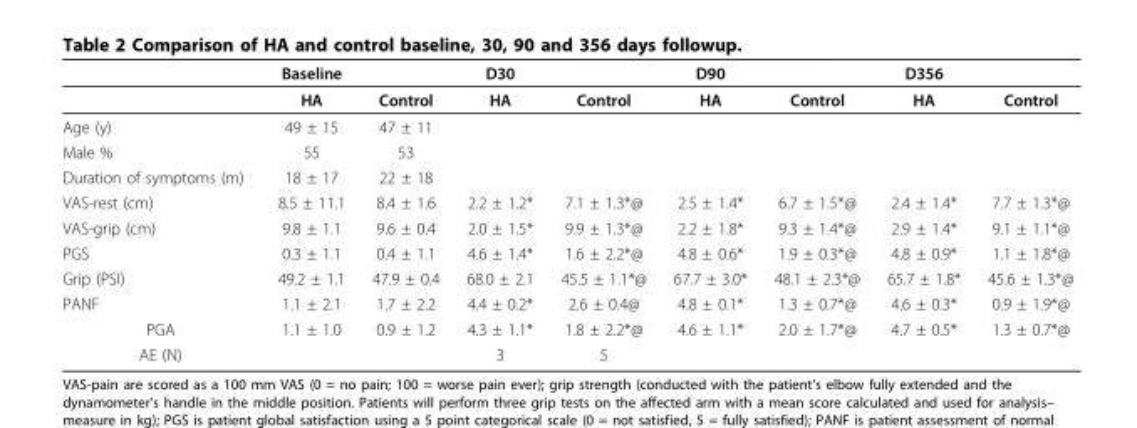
<table><thead><tr><td rowspan="2"></td><td rowspan="2">Baseline HA</td><td rowspan="2">Control</td><td rowspan="2">D30 HA</td><td rowspan="2">Control</td><td rowspan="2">D90 HA</td><td rowspan="2">Control</td><td rowspan="2">D356 HA</td><td rowspan="2">Control</td></tr><tr></tr></thead><tbody><tr><td>Age (y)</td><td>49 ± 15</td><td>47 ± 11</td><td></td><td></td><td></td><td></td><td></td><td></td></tr><tr><td>Male %</td><td>55</td><td>53</td><td></td><td></td><td></td><td></td><td></td><td></td></tr><tr><td>Duration of symptoms (m)</td><td>18 ± 17</td><td>22 ± 18</td><td></td><td></td><td></td><td></td><td></td><td></td></tr><tr><td>VAS-rest (cm)</td><td>8.5 ± 11.1</td><td>8.4 ± 1.6</td><td>2.2 ± 1.2*</td><td>7.1 ± 1.3*@</td><td>2.5 ± 1.4*</td><td>6.7 ± 1.5*@</td><td>2.4 ± 1.4*</td><td>7.7 ± 1.3*@</td></tr><tr><td>VAS-grip (cm)</td><td>9.8 ± 1.1</td><td>9.6 ± 0.4</td><td>2.0 ± 1.5*</td><td>9.9 ± 1.3*@</td><td>2.2 ± 1.8*</td><td>9.3 ± 1.4*@</td><td>2.9 ± 1.4*</td><td>9.1 ± 1.1*@</td></tr><tr><td>PGS</td><td>0.3 ± 1.1</td><td>0.4 ± 1.1</td><td>4.6 ± 1.4*</td><td>1.6 ± 2.2*@</td><td>4.8 ± 0.6*</td><td>1.9 ± 0.3*@</td><td>4.8 ± 0.9*</td><td>1.1 ± 1.8*@</td></tr><tr><td>Grip (PSI)</td><td>49.2 ± 1.1</td><td>47.9 ± 0.4</td><td>68.0 ± 2.1</td><td>45.5 ± 1.1*@</td><td>67.7 ± 3.0*</td><td>48.1 ± 2.3*@</td><td>65.7 ± 1.8*</td><td>45.6 ± 1.3*@</td></tr><tr><td>PANF</td><td>1.1 ± 2.1</td><td>1.7 ± 2.2</td><td>4.4 ± 0.2*</td><td>2.6 ± 0.4@</td><td>4.8 ± 0.1*</td><td>1.3 ± 0.7*@</td><td>4.6 ± 0.3*</td><td>0.9 ± 1.9*@</td></tr><tr><td>PGA</td><td>1.1 ± 1.0</td><td>0.9 ± 1.2</td><td>4.3 ± 1.1*</td><td>1.8 ± 2.2*@</td><td>4.6 ± 1.1*</td><td>2.0 ± 1.7*@</td><td>4.7 ± 0.5*</td><td>1.3 ± 0.7*@</td></tr><tr><td>AE (N)</td><td></td><td></td><td>3</td><td>5</td><td></td><td></td><td></td><td></td></tr></tbody></table>